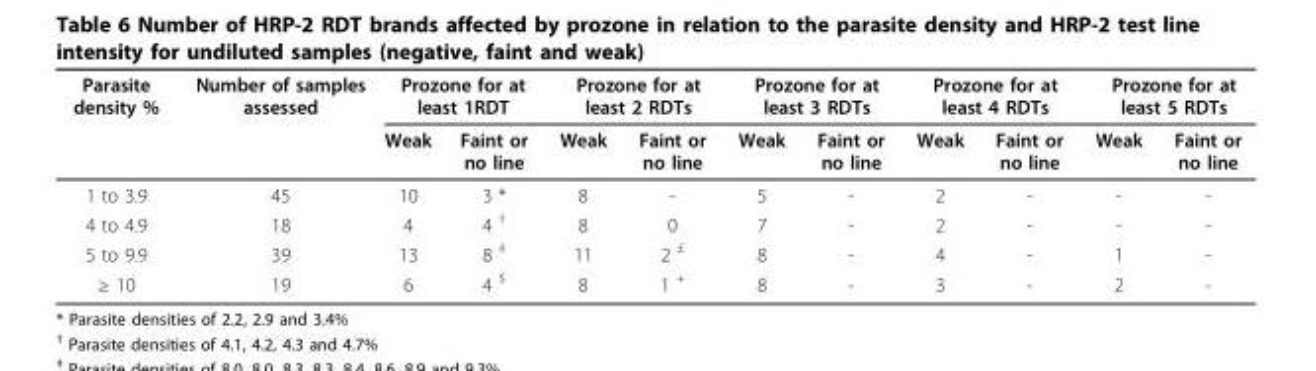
<table><thead><tr><td rowspan="2">Parasite density %</td><td rowspan="2">Number of samples assessed</td><td colspan="2">Prozone for at least 1RDT</td><td colspan="2">Prozone for at least 2 RDTs</td><td colspan="2">Prozone for at least 3 RDTs</td><td colspan="2">Prozone for at least 4 RDTs</td><td colspan="2">Prozone for at least 5 RDTs</td></tr><tr><td>Weak</td><td>Faint or no line</td><td>Weak</td><td>Faint or no line</td><td>Weak</td><td>Faint or no line</td><td>Weak</td><td>Faint or no line</td><td>Weak</td><td>Faint or no line</td></tr></thead><tbody><tr><td>1 to 3.9</td><td>45</td><td>10</td><td>3 *</td><td>8</td><td>-</td><td>5</td><td>-</td><td>2</td><td>-</td><td>-</td><td>-</td></tr><tr><td>4 to 4.9</td><td>18</td><td>4</td><td>4 <sup>†</sup></td><td>8</td><td>0</td><td>7</td><td>-</td><td>2</td><td>-</td><td>-</td><td>-</td></tr><tr><td>5 to 9.9</td><td>39</td><td>13</td><td>8 <sup>‡</sup></td><td>11</td><td>2 <sup>£</sup></td><td>8</td><td>-</td><td>4</td><td>-</td><td>1</td><td>-</td></tr><tr><td>≥ 10</td><td>19</td><td>6</td><td>4 <sup>$</sup></td><td>8</td><td>1 <sup>+</sup></td><td>8</td><td>-</td><td>3</td><td>-</td><td>2</td><td>-</td></tr></tbody></table>